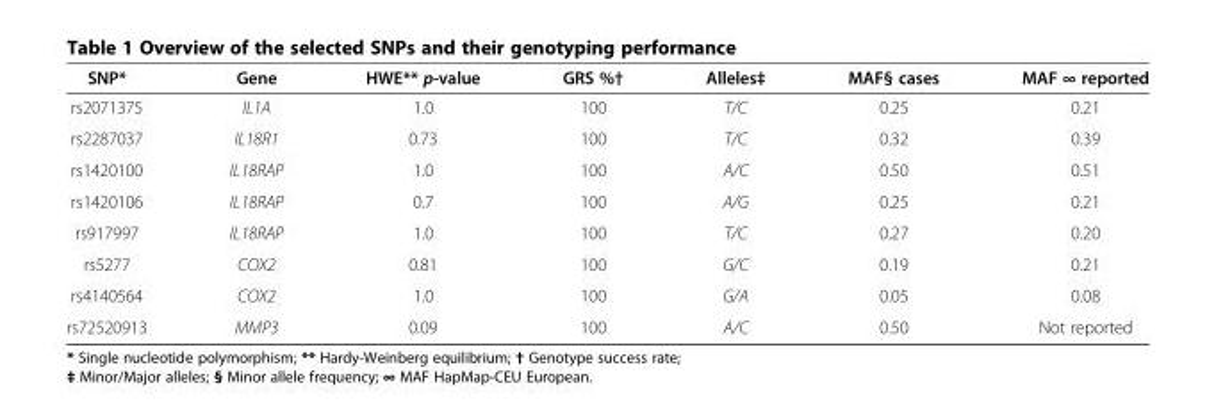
<table><thead><tr><td>SNP*</td><td>Gene</td><td>HWE** p-value</td><td>GRS %†</td><td>Alleles‡</td><td>MAF§ cases</td><td>MAF ∞ reported</td></tr></thead><tbody><tr><td>rs2071375</td><td>IL1A</td><td>1.0</td><td>100</td><td>T/C</td><td>0.25</td><td>0.21</td></tr><tr><td>rs2287037</td><td>IL18R1</td><td>0.73</td><td>100</td><td>T/C</td><td>0.32</td><td>0.39</td></tr><tr><td>rs1420100</td><td>IL18RAP</td><td>1.0</td><td>100</td><td>A/C</td><td>0.50</td><td>0.51</td></tr><tr><td>rs1420106</td><td>IL18RAP</td><td>0.7</td><td>100</td><td>A/G</td><td>0.25</td><td>0.21</td></tr><tr><td>rs917997</td><td>IL18RAP</td><td>1.0</td><td>100</td><td>T/C</td><td>0.27</td><td>0.20</td></tr><tr><td>rs5277</td><td>COX2</td><td>0.81</td><td>100</td><td>G/C</td><td>0.19</td><td>0.21</td></tr><tr><td>rs4140564</td><td>COX2</td><td>1.0</td><td>100</td><td>G/A</td><td>0.05</td><td>0.08</td></tr><tr><td>rs72520913</td><td>MMP3</td><td>0.09</td><td>100</td><td>A/C</td><td>0.50</td><td>Not reported</td></tr></tbody></table>